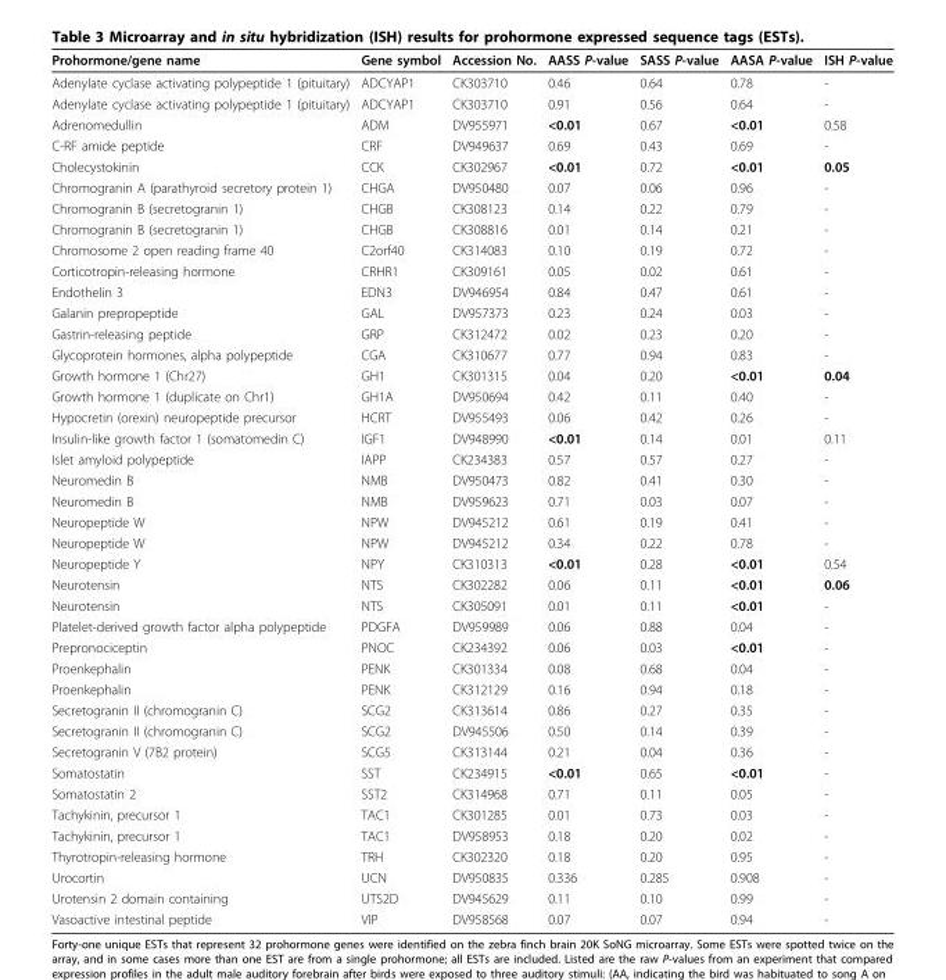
<table><thead><tr><td>Prohormone/gene name</td><td>Gene symbol</td><td>Accession No.</td><td>AASS P-value</td><td>SASS P-value</td><td>AASA P-value</td><td>ISH P-value</td></tr></thead><tbody><tr><td>Adenylate cyclase activating polypeptide 1 (pituitary)</td><td>ADCYAP1</td><td>CK303710</td><td>0.46</td><td>0.64</td><td>0.78</td><td>-</td></tr><tr><td>Adenylate cyclase activating polypeptide 1 (pituitary)</td><td>ADCYAP1</td><td>CK303710</td><td>0.91</td><td>0.56</td><td>0.64</td><td>-</td></tr><tr><td>Adrenomedullin</td><td>ADM</td><td>DV955971</td><td>&lt;0.01</td><td>0.67</td><td>&lt;0.01</td><td>0.58</td></tr><tr><td>C-RF amide peptide</td><td>CRF</td><td>DV949637</td><td>0.69</td><td>0.43</td><td>0.69</td><td>-</td></tr><tr><td>Cholecystokinin</td><td>CCK</td><td>CK302967</td><td>&lt;0.01</td><td>0.72</td><td>&lt;0.01</td><td>0.05</td></tr><tr><td>Chromogranin A (parathyroid secretory protein 1)</td><td>CHGA</td><td>DV950480</td><td>0.07</td><td>0.06</td><td>0.96</td><td>-</td></tr><tr><td>Chromogranin B (secretogranin 1)</td><td>CHGB</td><td>CK308123</td><td>0.14</td><td>0.22</td><td>0.79</td><td>-</td></tr><tr><td>Chromogranin B (secretogranin 1)</td><td>CHGB</td><td>CK308816</td><td>0.01</td><td>0.14</td><td>0.21</td><td>-</td></tr><tr><td>Chromosome 2 open reading frame 40</td><td>C2orf40</td><td>CK314083</td><td>0.10</td><td>0.19</td><td>0.72</td><td>-</td></tr><tr><td>Corticotropin-releasing hormone</td><td>CRHR1</td><td>CK309161</td><td>0.05</td><td>0.02</td><td>0.61</td><td>-</td></tr><tr><td>Endothelin 3</td><td>EDN3</td><td>DV946954</td><td>0.84</td><td>0.47</td><td>0.61</td><td>-</td></tr><tr><td>Galanin prepropeptide</td><td>GAL</td><td>DV957373</td><td>0.23</td><td>0.24</td><td>0.03</td><td>-</td></tr><tr><td>Gastrin-releasing peptide</td><td>GRP</td><td>CK312472</td><td>0.02</td><td>0.23</td><td>0.20</td><td>-</td></tr><tr><td>Glycoprotein hormones, alpha polypeptide</td><td>CGA</td><td>CK310677</td><td>0.77</td><td>0.94</td><td>0.83</td><td>-</td></tr><tr><td>Growth hormone 1 (Chr27)</td><td>GH1</td><td>CK301315</td><td>0.04</td><td>0.20</td><td>&lt;0.01</td><td>0.04</td></tr><tr><td>Growth hormone 1 (duplicate on Chr1)</td><td>GH1A</td><td>DV950694</td><td>0.42</td><td>0.11</td><td>0.40</td><td>-</td></tr><tr><td>Hypocretin (orexin) neuropeptide precursor</td><td>HCRT</td><td>DV955493</td><td>0.06</td><td>0.42</td><td>0.26</td><td>-</td></tr><tr><td>Insulin-like growth factor 1 (somatomedin C)</td><td>IGF1</td><td>DV948990</td><td>&lt;0.01</td><td>0.14</td><td>0.01</td><td>0.11</td></tr><tr><td>Islet amyloid polypeptide</td><td>IAPP</td><td>CK234383</td><td>0.57</td><td>0.57</td><td>0.27</td><td>-</td></tr><tr><td>Neuromedin B</td><td>NMB</td><td>DV950473</td><td>0.82</td><td>0.41</td><td>0.30</td><td>-</td></tr><tr><td>Neuromedin B</td><td>NMB</td><td>DV959623</td><td>0.71</td><td>0.03</td><td>0.07</td><td>-</td></tr><tr><td>Neuropeptide W</td><td>NPW</td><td>DV945212</td><td>0.61</td><td>0.19</td><td>0.41</td><td>-</td></tr><tr><td>Neuropeptide W</td><td>NPW</td><td>DV945212</td><td>0.34</td><td>0.22</td><td>0.78</td><td>-</td></tr><tr><td>Neuropeptide Y</td><td>NPY</td><td>CK310313</td><td>&lt;0.01</td><td>0.28</td><td>&lt;0.01</td><td>0.54</td></tr><tr><td>Neurotensin</td><td>NTS</td><td>CK302282</td><td>0.06</td><td>0.11</td><td>&lt;0.01</td><td>0.06</td></tr><tr><td>Neurotensin</td><td>NTS</td><td>CK305091</td><td>0.01</td><td>0.11</td><td>&lt;0.01</td><td>-</td></tr><tr><td>Platelet-derived growth factor alpha polypeptide</td><td>PDGFA</td><td>DV959989</td><td>0.06</td><td>0.88</td><td>0.04</td><td>-</td></tr><tr><td>Prepronociceptin</td><td>PNOC</td><td>CK234392</td><td>0.06</td><td>0.03</td><td>&lt;0.01</td><td>-</td></tr><tr><td>Proenkephalin</td><td>PENK</td><td>CK301334</td><td>0.08</td><td>0.68</td><td>0.04</td><td>-</td></tr><tr><td>Proenkephalin</td><td>PENK</td><td>CK312129</td><td>0.16</td><td>0.94</td><td>0.18</td><td>-</td></tr><tr><td>Secretogranin II (chromogranin C)</td><td>SCG2</td><td>CK313614</td><td>0.86</td><td>0.27</td><td>0.35</td><td>-</td></tr><tr><td>Secretogranin II (chromogranin C)</td><td>SCG2</td><td>DV945506</td><td>0.50</td><td>0.14</td><td>0.39</td><td>-</td></tr><tr><td>Secretogranin V (7B2 protein)</td><td>SCG5</td><td>CK313144</td><td>0.21</td><td>0.04</td><td>0.36</td><td>-</td></tr><tr><td>Somatostatin</td><td>SST</td><td>CK234915</td><td>&lt;0.01</td><td>0.65</td><td>&lt;0.01</td><td>-</td></tr><tr><td>Somatostatin 2</td><td>SST2</td><td>CK314968</td><td>0.71</td><td>0.11</td><td>0.05</td><td>-</td></tr><tr><td>Tachykinin, precursor 1</td><td>TAC1</td><td>CK301285</td><td>0.01</td><td>0.73</td><td>0.03</td><td>-</td></tr><tr><td>Tachykinin, precursor 1</td><td>TAC1</td><td>DV958953</td><td>0.18</td><td>0.20</td><td>0.02</td><td>-</td></tr><tr><td>Thyrotropin-releasing hormone</td><td>TRH</td><td>CK302320</td><td>0.18</td><td>0.20</td><td>0.95</td><td>-</td></tr><tr><td>Urocortin</td><td>UCN</td><td>DV950835</td><td>0.336</td><td>0.285</td><td>0.908</td><td>-</td></tr><tr><td>Urotensin 2 domain containing</td><td>UTS2D</td><td>DV945629</td><td>0.11</td><td>0.10</td><td>0.99</td><td>-</td></tr><tr><td>Vasoactive intestinal peptide</td><td>VIP</td><td>DV958568</td><td>0.07</td><td>0.07</td><td>0.94</td><td>-</td></tr></tbody></table>